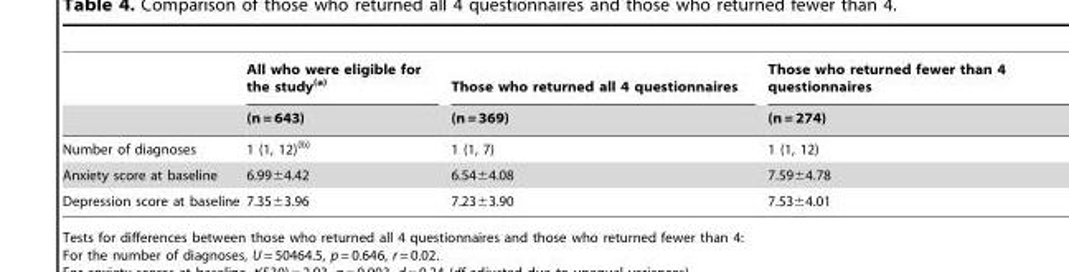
<table><thead><tr><td rowspan="2"></td><td rowspan="2">All who were eligible for the study(a) (n = 643)</td><td rowspan="2">Those who returned all 4 questionnaires (n = 369)</td><td rowspan="2">Those who returned fewer than 4 questionnaires (n = 274)</td></tr><tr></tr></thead><tbody><tr><td>Number of diagnoses</td><td>1 (1, 12)(b)</td><td>1 (1, 7)</td><td>1 (1, 12)</td></tr><tr><td>Anxiety score at baseline</td><td>6.99±4.42</td><td>6.54±4.08</td><td>7.59±4.78</td></tr><tr><td>Depression score at baseline</td><td>7.35±3.96</td><td>7.23±3.90</td><td>7.53±4.01</td></tr></tbody></table>